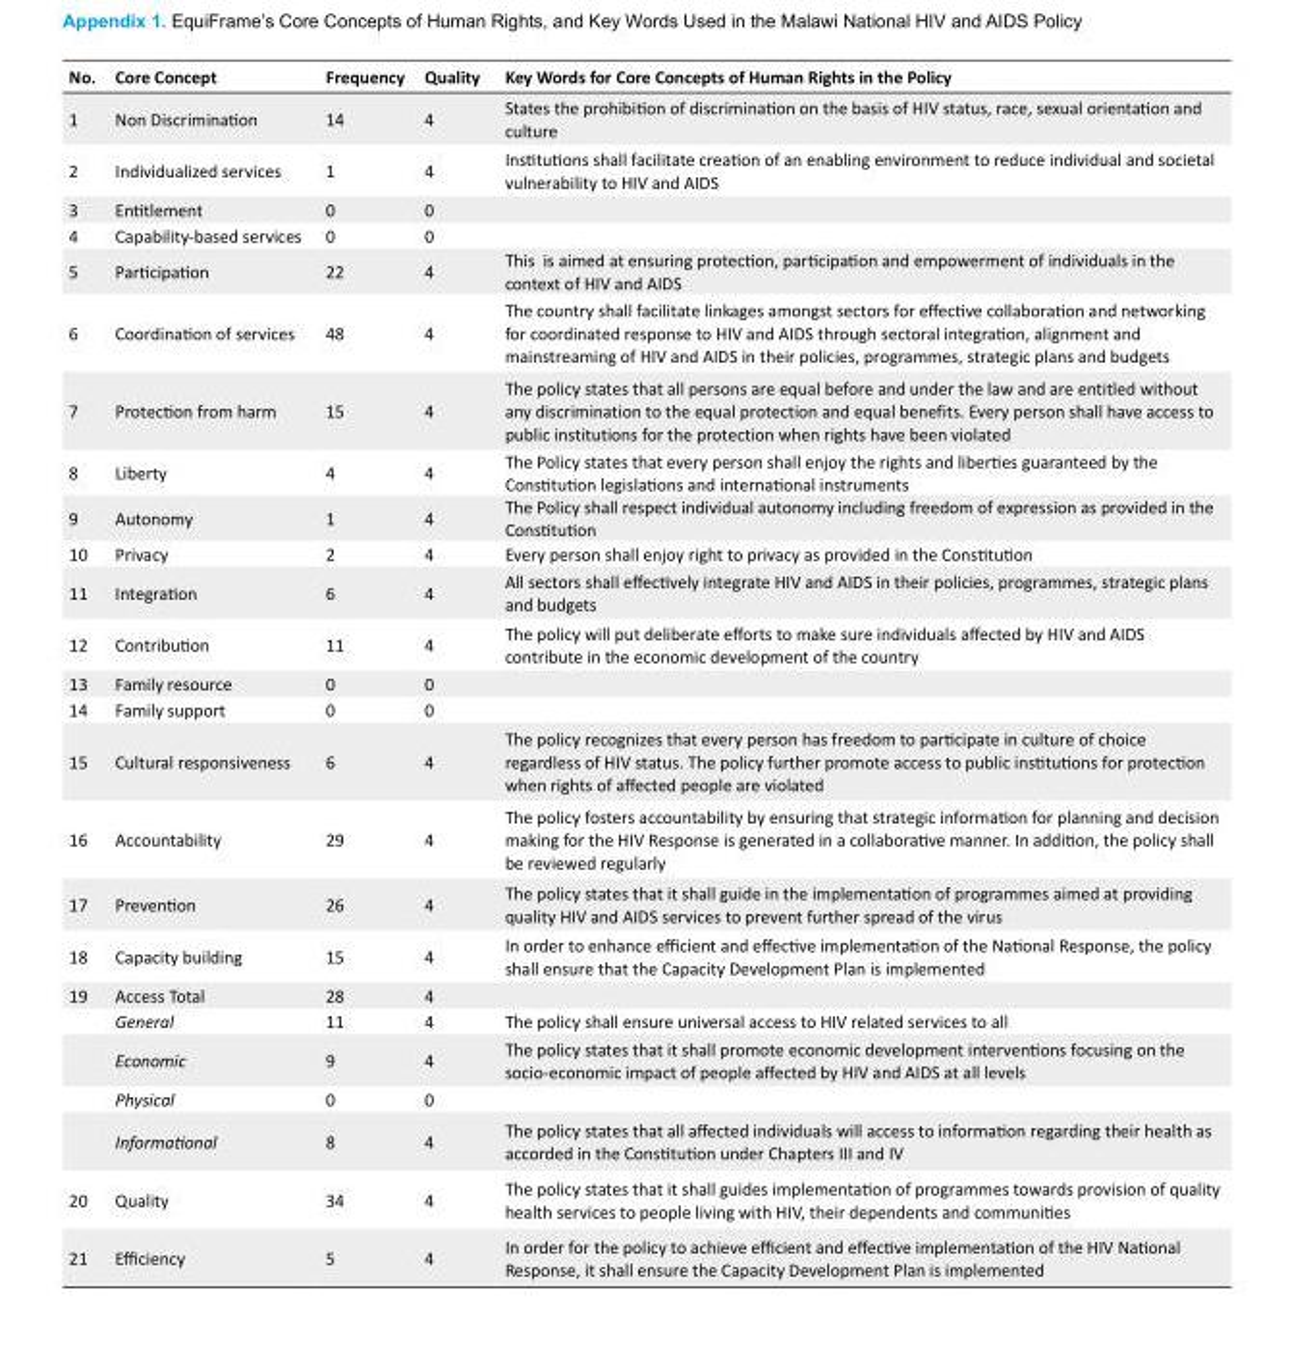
<table><tbody><tr><td>No.</td><td>Core Concept</td><td>Frequency</td><td>Quality</td><td>Key Words for Core Concepts of Human Rights in the Policy</td></tr><tr><td>1</td><td>Non Discrimination</td><td>14</td><td>4</td><td>States the prohibition of discrimination on the basis of HIV status, race, sexual orientation and culture</td></tr><tr><td>2</td><td>Individualized services</td><td>1</td><td>4</td><td>Institutions shall facilitate creation of an enabling environment to reduce individual and societal vulnerability to HIV and AIDS</td></tr><tr><td>3</td><td>Entitlement</td><td>0</td><td>0</td><td></td></tr><tr><td>4</td><td>Capability-based services</td><td>0</td><td>0</td><td></td></tr><tr><td>5</td><td>Participation</td><td>22</td><td>4</td><td>This is aimed at ensuring protection, participation and empowerment of individuals in the context of HIV and AIDS</td></tr><tr><td>6</td><td>Coordination of services</td><td>48</td><td>4</td><td>The country shall facilitate linkages amongst sectors for effective collaboration and networking for coordinated response to HIV and AIDS through sectoral integration, alignment and mainstreaming of HIV and AIDS in their policies, programmes, strategic plans and budgets</td></tr><tr><td>7</td><td>Protection from harm</td><td>15</td><td>4</td><td>The policy states that all persons are equal before and under the law and are entitled without any discrimination to the equal protection and equal benefits. Every person shall have access to public institutions for the protection when rights have been violated</td></tr><tr><td>8</td><td>Liberty</td><td>4</td><td>4</td><td>The Policy states that every person shall enjoy the rights and liberties guaranteed by the Constitution legislations and international instruments</td></tr><tr><td>9</td><td>Autonomy</td><td>1</td><td>4</td><td>The Policy shall respect individual autonomy including freedom of expression as provided in the Constitution</td></tr><tr><td>10</td><td>Privacy</td><td>2</td><td>4</td><td>Every person shall enjoy right to privacy as provided in the Constitution</td></tr><tr><td>11</td><td>Integration</td><td>6</td><td>4</td><td>All sectors shall effectively integrate HIV and AIDS in their policies, programmes, strategic plans and budgets</td></tr><tr><td>12</td><td>Contribution</td><td>11</td><td>4</td><td>The policy will put deliberate efforts to make sure individuals affected by HIV and AIDS contribute in the economic development of the country</td></tr><tr><td>13</td><td>Family resource</td><td>0</td><td>0</td><td></td></tr><tr><td>14</td><td>Family support</td><td>0</td><td>0</td><td></td></tr><tr><td>15</td><td>Cultural responsiveness</td><td>6</td><td>4</td><td>The policy recognizes that every person has freedom to participate in culture of choice regardless of HIV status. The policy further promote access to public institutions for protection when rights of affected people are violated</td></tr><tr><td>16</td><td>Accountability</td><td>29</td><td>4</td><td>The policy fosters accountability by ensuring that strategic information for planning and decision making for the HIV Response is generated in a collaborative manner. In addition, the policy shall be reviewed regularly</td></tr><tr><td>17</td><td>Prevention</td><td>26</td><td>4</td><td>The policy states that it shall guide in the implementation of programmes aimed at providing quality HIV and AIDS services to prevent further spread of the virus</td></tr><tr><td>18</td><td>Capacity building</td><td>15</td><td>4</td><td>In order to enhance efficient and effective implementation of the National Response, the policy shall ensure that the Capacity Development Plan is implemented</td></tr><tr><td rowspan="5">19</td><td>Access Total</td><td>28</td><td>4</td><td></td></tr><tr><td>General</td><td>11</td><td>4</td><td>The policy shall ensure universal access to HIV related services to all</td></tr><tr><td>Economic</td><td>9</td><td>4</td><td>The policy states that it shall promote economic development interventions focusing on the socio-economic impact of people affected by HIV and AIDS at all levels</td></tr><tr><td>Physical</td><td>0</td><td>0</td><td></td></tr><tr><td>Informational</td><td>8</td><td>4</td><td>The policy states that all affected individuals will access to information regarding their health as accorded in the Constitution under Chapters III and IV</td></tr><tr><td>20</td><td>Quality</td><td>34</td><td>4</td><td>The policy states that it shall guides implementation of programmes towards provision of quality health services to people living with HIV, their dependents and communities</td></tr><tr><td>21</td><td>Efficiency</td><td>5</td><td>4</td><td>In order for the policy to achieve efficient and effective implementation of the HIV National Response, it shall ensure the Capacity Development Plan is implemented</td></tr></tbody></table>